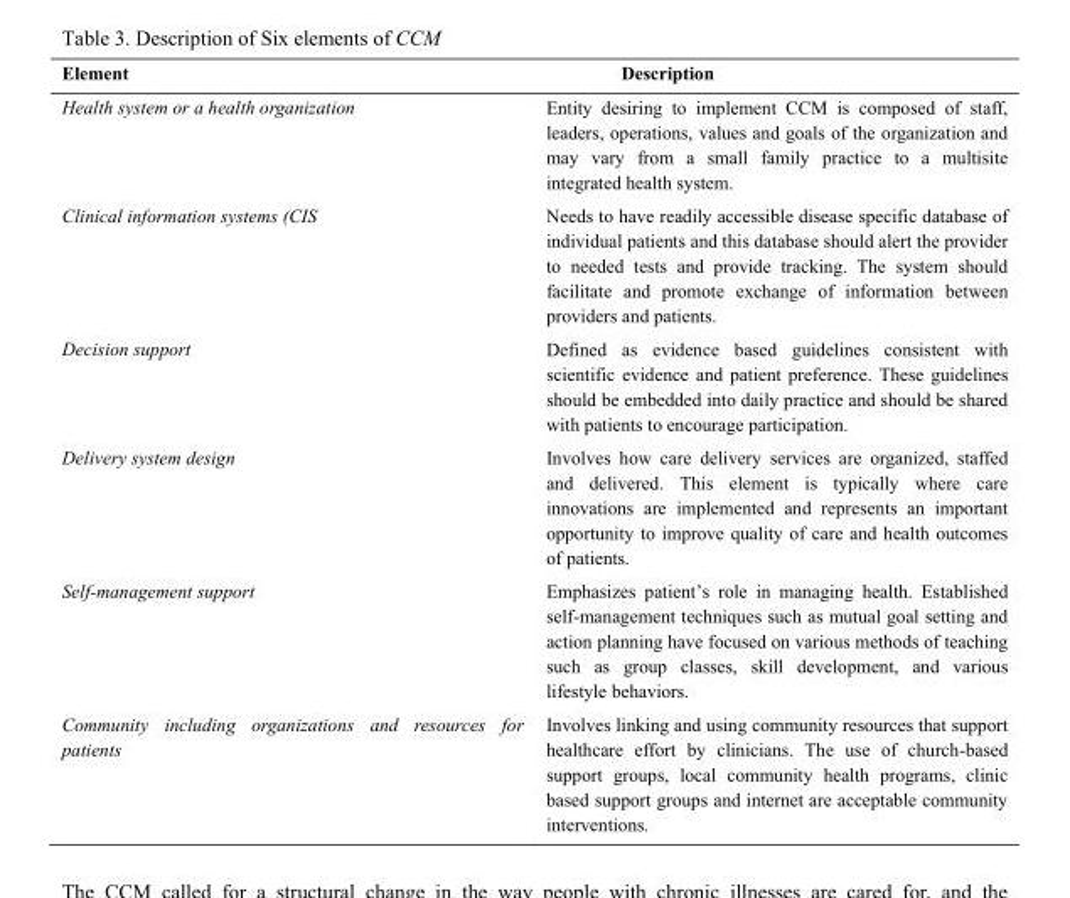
<table><thead><tr><td>Element</td><td>Description</td></tr></thead><tbody><tr><td>Health system or a health organization</td><td>Entity desiring to implement CCM is composed of staff, leaders, operations, values and goals of the organization and may vary from a small family practice to a multisite integrated health system.</td></tr><tr><td>Clinical information systems (CIS</td><td>Needs to have readily accessible disease specific database of individual patients and this database should alert the provider to needed tests and provide tracking. The system should facilitate and promote exchange of information between providers and patients.</td></tr><tr><td>Decision support</td><td>Defined as evidence based guidelines consistent with scientific evidence and patient preference. These guidelines should be embedded into daily practice and should be shared with patients to encourage participation.</td></tr><tr><td>Delivery system design</td><td>Involves how care delivery services are organized, staffed and delivered. This element is typically where care innovations are implemented and represents an important opportunity to improve quality of care and health outcomes of patients.</td></tr><tr><td>Self-management support</td><td>Emphasizes patient’s role in managing health. Established self-management techniques such as mutual goal setting and action planning have focused on various methods of teaching such as group classes, skill development, and various lifestyle behaviors.</td></tr><tr><td>Community including organizations and resources for patients</td><td>Involves linking and using community resources that support healthcare effort by clinicians. The use of church-based support groups, local community health programs, clinic based support groups and internet are acceptable community interventions.</td></tr></tbody></table>